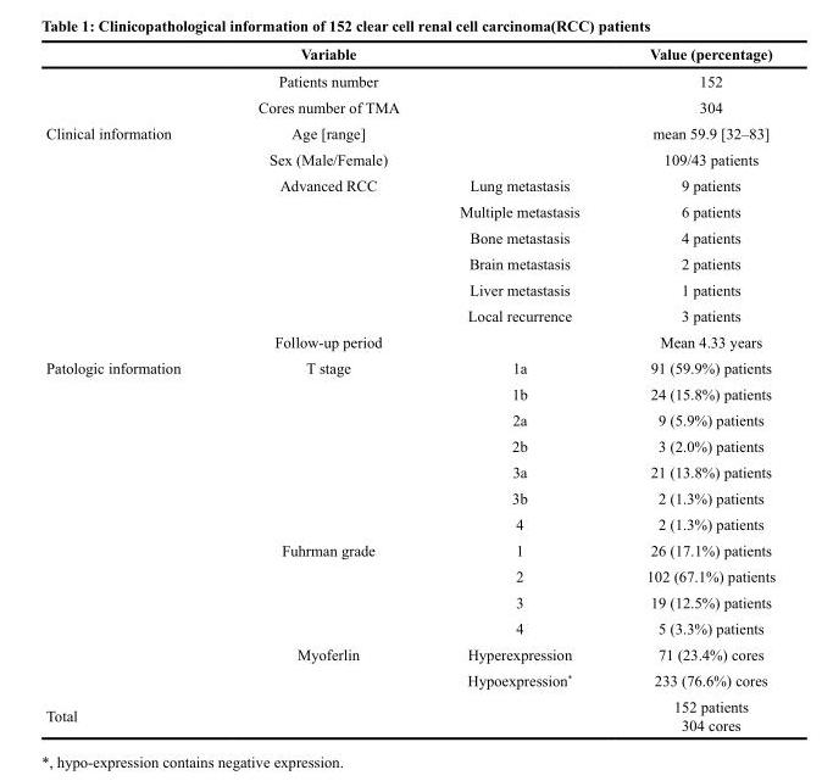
<table><thead><tr><td></td><td>Variable</td><td></td><td>Value (percentage)</td></tr></thead><tbody><tr><td></td><td>Patients number</td><td></td><td>152</td></tr><tr><td></td><td>Cores number of TMA</td><td></td><td>304</td></tr><tr><td rowspan="9">Clinical information</td><td>Age [range]</td><td></td><td>mean 59.9 [32–83]</td></tr><tr><td>Sex (Male/Female)</td><td></td><td>109/43 patients</td></tr><tr><td>Advanced RCC</td><td>Lung metastasis</td><td>9 patients</td></tr><tr><td></td><td>Multiple metastasis</td><td>6 patients</td></tr><tr><td></td><td>Bone metastasis</td><td>4 patients</td></tr><tr><td></td><td>Brain metastasis</td><td>2 patients</td></tr><tr><td></td><td>Liver metastasis</td><td>1 patients</td></tr><tr><td></td><td>Local recurrence</td><td>3 patients</td></tr><tr><td>Follow-up period</td><td></td><td>Mean 4.33 years</td></tr><tr><td rowspan="13">Patologic information</td><td>T stage</td><td>1a</td><td>91 (59.9%) patients</td></tr><tr><td></td><td>1b</td><td>24 (15.8%) patients</td></tr><tr><td></td><td>2a</td><td>9 (5.9%) patients</td></tr><tr><td></td><td>2b</td><td>3 (2.0%) patients</td></tr><tr><td></td><td>3a</td><td>21 (13.8%) patients</td></tr><tr><td></td><td>3b</td><td>2 (1.3%) patients</td></tr><tr><td></td><td>4</td><td>2 (1.3%) patients</td></tr><tr><td>Fuhrman grade</td><td>1</td><td>26 (17.1%) patients</td></tr><tr><td></td><td>2</td><td>102 (67.1%) patients</td></tr><tr><td></td><td>3</td><td>19 (12.5%) patients</td></tr><tr><td></td><td>4</td><td>5 (3.3%) patients</td></tr><tr><td>Myoferlin</td><td>Hyperexpression</td><td>71 (23.4%) cores</td></tr><tr><td></td><td>Hypoexpression*</td><td>233 (76.6%) cores</td></tr><tr><td>Total</td><td></td><td></td><td>152 patients 304 cores</td></tr></tbody></table>